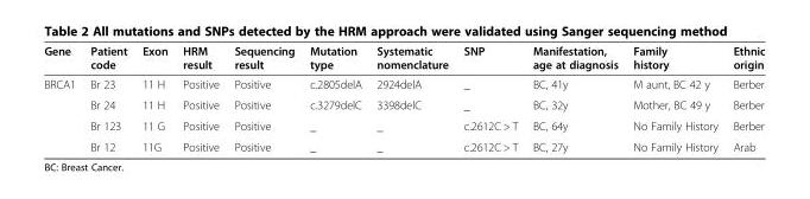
<table><thead><tr><td>Gene</td><td>Patient code</td><td>Exon</td><td>HRM result</td><td>Sequencing result</td><td>Mutation type</td><td>Systematic nomenclature</td><td>SNP</td><td>Manifestation, age at diagnosis</td><td>Family history</td><td>Ethnic origin</td></tr></thead><tbody><tr><td rowspan="4">BRCA1</td><td>Br 23</td><td>11 H</td><td>Positive</td><td>Positive</td><td>c.2805delA</td><td>2924delA</td><td>_</td><td>BC, 41y</td><td>M aunt, BC 42 y</td><td>Berber</td></tr><tr><td>Br 24</td><td>11 H</td><td>Positive</td><td>Positive</td><td>c.3279delC</td><td>3398delC</td><td>_</td><td>BC, 32y</td><td>Mother, BC 49 y</td><td>Berber</td></tr><tr><td>Br 123</td><td>11 G</td><td>Positive</td><td>Positive</td><td>_</td><td>_</td><td>c.2612C &gt; T</td><td>BC, 64y</td><td>No Family History</td><td>Berber</td></tr><tr><td>Br 12</td><td>11G</td><td>Positive</td><td>Positive</td><td>_</td><td>_</td><td>c.2612C &gt; T</td><td>BC, 27y</td><td>No Family History</td><td>Arab</td></tr></tbody></table>